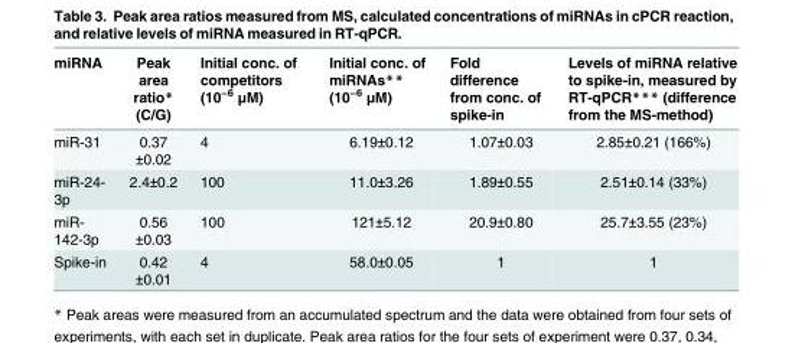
<table><thead><tr><td>miRNA</td><td>Peak area ratio* (C/G)</td><td>Initial conc. of competitors (10<sup>−6</sup> μM)</td><td>Initial conc. of miRNAs** (10<sup>−6</sup> μM)</td><td>Fold difference from conc. of spike-in</td><td>Levels of miRNA relative to spike-in, measured by RT-qPCR*** (difference from the MS-method)</td></tr></thead><tbody><tr><td>miR-31</td><td>0.37 ±0.02</td><td>4</td><td>6.19±0.12</td><td>1.07±0.03</td><td>2.85±0.21 (166%)</td></tr><tr><td>miR-24- 3p</td><td>2.4±0.2</td><td>100</td><td>11.0±3.26</td><td>1.89±0.55</td><td>2.51±0.14 (33%)</td></tr><tr><td>miR- 142-3p</td><td>0.56 ±0.03</td><td>100</td><td>121±5.12</td><td>20.9±0.80</td><td>25.7±3.55 (23%)</td></tr><tr><td>Spike-in</td><td>0.42 ±0.01</td><td>4</td><td>58.0±0.05</td><td>1</td><td>1</td></tr></tbody></table>